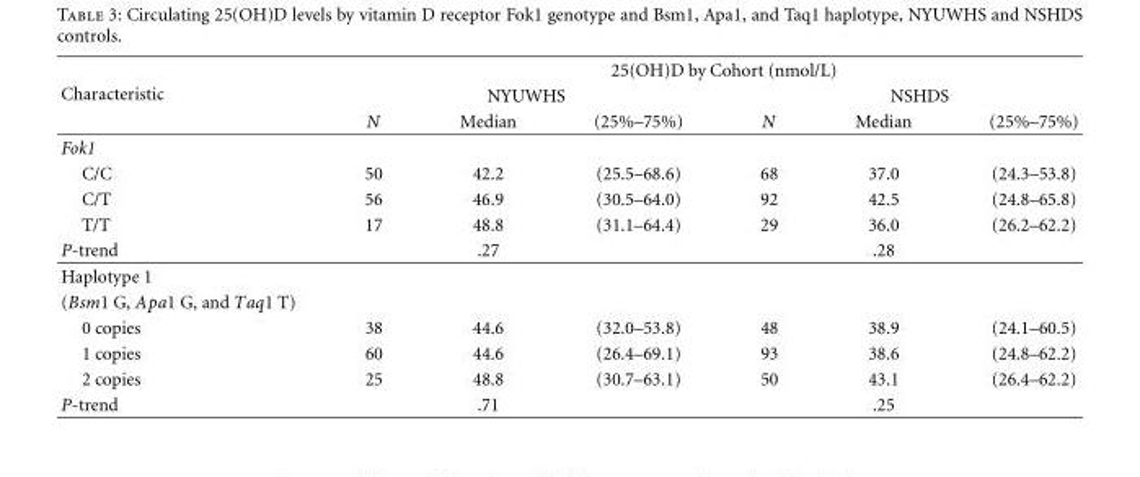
<table><thead><tr><td rowspan="3">Characteristic</td><td colspan="6">25(OH)D by Cohort (nmol/L)</td></tr><tr><td colspan="3">NYUWHS</td><td colspan="3">NSHDS</td></tr><tr><td>N</td><td>Median</td><td>(25%–75%)</td><td>N</td><td>Median</td><td>(25%–75%)</td></tr></thead><tbody><tr><td colspan="7">Fok1</td></tr><tr><td>C/C</td><td>50</td><td>42.2</td><td>(25.5–68.6)</td><td>68</td><td>37.0</td><td>(24.3–53.8)</td></tr><tr><td>C/T</td><td>56</td><td>46.9</td><td>(30.5–64.0)</td><td>92</td><td>42.5</td><td>(24.8–65.8)</td></tr><tr><td>T/T</td><td>17</td><td>48.8</td><td>(31.1–64.4)</td><td>29</td><td>36.0</td><td>(26.2–62.2)</td></tr><tr><td>P-trend</td><td></td><td>.27</td><td></td><td></td><td>.28</td><td></td></tr><tr><td colspan="7">Haplotype 1</td></tr><tr><td colspan="7">(Bsm1 G, Apa1 G, and Taq1 T)</td></tr><tr><td>0 copies</td><td>38</td><td>44.6</td><td>(32.0–53.8)</td><td>48</td><td>38.9</td><td>(24.1–60.5)</td></tr><tr><td>1 copies</td><td>60</td><td>44.6</td><td>(26.4–69.1)</td><td>93</td><td>38.6</td><td>(24.8–62.2)</td></tr><tr><td>2 copies</td><td>25</td><td>48.8</td><td>(30.7–63.1)</td><td>50</td><td>43.1</td><td>(26.4–62.2)</td></tr><tr><td>P-trend</td><td></td><td>.71</td><td></td><td></td><td>.25</td><td></td></tr></tbody></table>